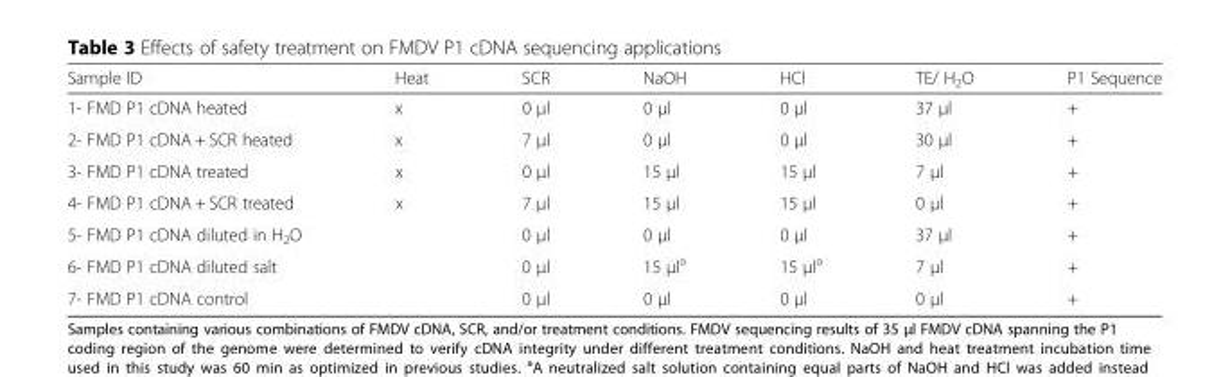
<table><thead><tr><td>Sample ID</td><td>Heat</td><td>SCR</td><td>NaOH</td><td>HCl</td><td>TE/ H<sub>2</sub>O</td><td>P1 Sequence</td></tr></thead><tbody><tr><td>1- FMD P1 cDNA heated</td><td>x</td><td>0 μl</td><td>0 μl</td><td>0 μl</td><td>37 μl</td><td>+</td></tr><tr><td>2- FMD P1 cDNA + SCR heated</td><td>x</td><td>7 μl</td><td>0 μl</td><td>0 μl</td><td>30 μl</td><td>+</td></tr><tr><td>3- FMD P1 cDNA treated</td><td>x</td><td>0 μl</td><td>15 μl</td><td>15 μl</td><td>7 μl</td><td>+</td></tr><tr><td>4- FMD P1 cDNA + SCR treated</td><td>x</td><td>7 μl</td><td>15 μl</td><td>15 μl</td><td>0 μl</td><td>+</td></tr><tr><td>5- FMD P1 cDNA diluted in H<sub>2</sub>O</td><td></td><td>0 μl</td><td>0 μl</td><td>0 μl</td><td>37 μl</td><td>+</td></tr><tr><td>6- FMD P1 cDNA diluted salt</td><td></td><td>0 μl</td><td>15 μl<sup>a</sup></td><td>15 μl<sup>a</sup></td><td>7 μl</td><td>+</td></tr><tr><td>7- FMD P1 cDNA control</td><td></td><td>0 μl</td><td>0 μl</td><td>0 μl</td><td>0 μl</td><td>+</td></tr></tbody></table>